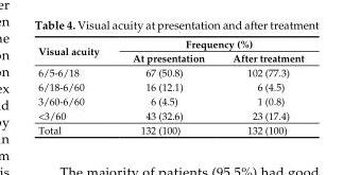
<table><thead><tr><td rowspan="2">Visual acuity</td><td colspan="2">Frequency (%)</td></tr><tr><td>At presentation</td><td>After treatment</td></tr></thead><tbody><tr><td>6/5-6/18</td><td>67 (50.8)</td><td>102 (77.3)</td></tr><tr><td>6/18-6/60</td><td>16 (12.1)</td><td>6 (4.5)</td></tr><tr><td>3/60-6/60</td><td>6 (4.5)</td><td>1 (0.8)</td></tr><tr><td>&lt;3/60</td><td>43 (32.6)</td><td>23 (17.4)</td></tr><tr><td>Total</td><td>132 (100)</td><td>132 (100)</td></tr></tbody></table>